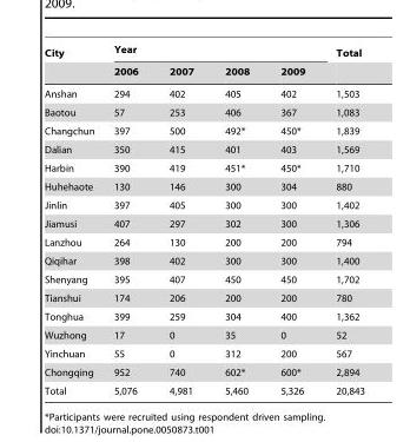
<table><thead><tr><td rowspan="2">City</td><td colspan="4">Year</td><td rowspan="2">Total</td></tr><tr><td>2006</td><td>2007</td><td>2008</td><td>2009</td></tr></thead><tbody><tr><td>Anshan</td><td>294</td><td>402</td><td>405</td><td>402</td><td>1,503</td></tr><tr><td>Baotou</td><td>57</td><td>253</td><td>406</td><td>367</td><td>1,083</td></tr><tr><td>Changchun</td><td>397</td><td>500</td><td>492*</td><td>450*</td><td>1,839</td></tr><tr><td>Dalian</td><td>350</td><td>415</td><td>401</td><td>403</td><td>1,569</td></tr><tr><td>Harbin</td><td>390</td><td>419</td><td>451*</td><td>450*</td><td>1,710</td></tr><tr><td>Huhehaote</td><td>130</td><td>146</td><td>300</td><td>304</td><td>880</td></tr><tr><td>Jinlin</td><td>397</td><td>405</td><td>300</td><td>300</td><td>1,402</td></tr><tr><td>Jiamusi</td><td>407</td><td>297</td><td>302</td><td>300</td><td>1,306</td></tr><tr><td>Lanzhou</td><td>264</td><td>130</td><td>200</td><td>200</td><td>794</td></tr><tr><td>Qiqihar</td><td>398</td><td>402</td><td>300</td><td>300</td><td>1,400</td></tr><tr><td>Shenyang</td><td>395</td><td>407</td><td>450</td><td>450</td><td>1,702</td></tr><tr><td>Tianshui</td><td>174</td><td>206</td><td>200</td><td>200</td><td>780</td></tr><tr><td>Tonghua</td><td>399</td><td>259</td><td>304</td><td>400</td><td>1,362</td></tr><tr><td>Wuzhong</td><td>17</td><td>0</td><td>35</td><td>0</td><td>52</td></tr><tr><td>Yinchuan</td><td>55</td><td>0</td><td>312</td><td>200</td><td>567</td></tr><tr><td>Chongqing</td><td>952</td><td>740</td><td>602*</td><td>600*</td><td>2,894</td></tr><tr><td>Total</td><td>5,076</td><td>4,981</td><td>5,460</td><td>5,326</td><td>20,843</td></tr></tbody></table>